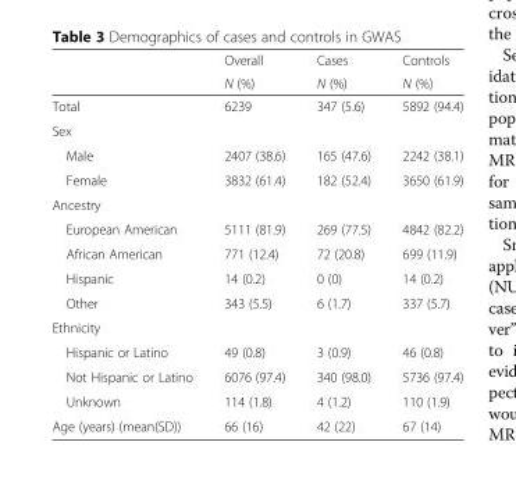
<table><thead><tr><td rowspan="2"></td><td rowspan="2">Overall N (%)</td><td rowspan="2">Cases N (%)</td><td rowspan="2">Controls N (%)</td></tr><tr></tr></thead><tbody><tr><td>Total</td><td>6239</td><td>347 (5.6)</td><td>5892 (94.4)</td></tr><tr><td colspan="4">Sex</td></tr><tr><td>Male</td><td>2407 (38.6)</td><td>165 (47.6)</td><td>2242 (38.1)</td></tr><tr><td>Female</td><td>3832 (61.4)</td><td>182 (52.4)</td><td>3650 (61.9)</td></tr><tr><td colspan="4">Ancestry</td></tr><tr><td>European American</td><td>5111 (81.9)</td><td>269 (77.5)</td><td>4842 (82.2)</td></tr><tr><td>African American</td><td>771 (12.4)</td><td>72 (20.8)</td><td>699 (11.9)</td></tr><tr><td>Hispanic</td><td>14 (0.2)</td><td>0 (0)</td><td>14 (0.2)</td></tr><tr><td>Other</td><td>343 (5.5)</td><td>6 (1.7)</td><td>337 (5.7)</td></tr><tr><td colspan="4">Ethnicity</td></tr><tr><td>Hispanic or Latino</td><td>49 (0.8)</td><td>3 (0.9)</td><td>46 (0.8)</td></tr><tr><td>Not Hispanic or Latino</td><td>6076 (97.4)</td><td>340 (98.0)</td><td>5736 (97.4)</td></tr><tr><td>Unknown</td><td>114 (1.8)</td><td>4 (1.2)</td><td>110 (1.9)</td></tr><tr><td>Age (years) (mean(SD))</td><td>66 (16)</td><td>42 (22)</td><td>67 (14)</td></tr></tbody></table>